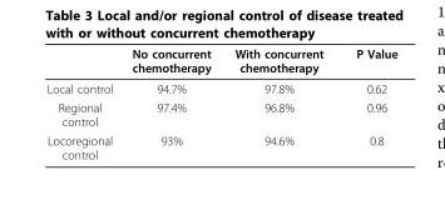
<table><thead><tr><td></td><td>No concurrent chemotherapy</td><td>With concurrent chemotherapy</td><td>P Value</td></tr></thead><tbody><tr><td>Local control</td><td>94.7%</td><td>97.8%</td><td>0.62</td></tr><tr><td>Regional control</td><td>97.4%</td><td>96.8%</td><td>0.96</td></tr><tr><td>Locoregional control</td><td>93%</td><td>94.6%</td><td>0.8</td></tr></tbody></table>